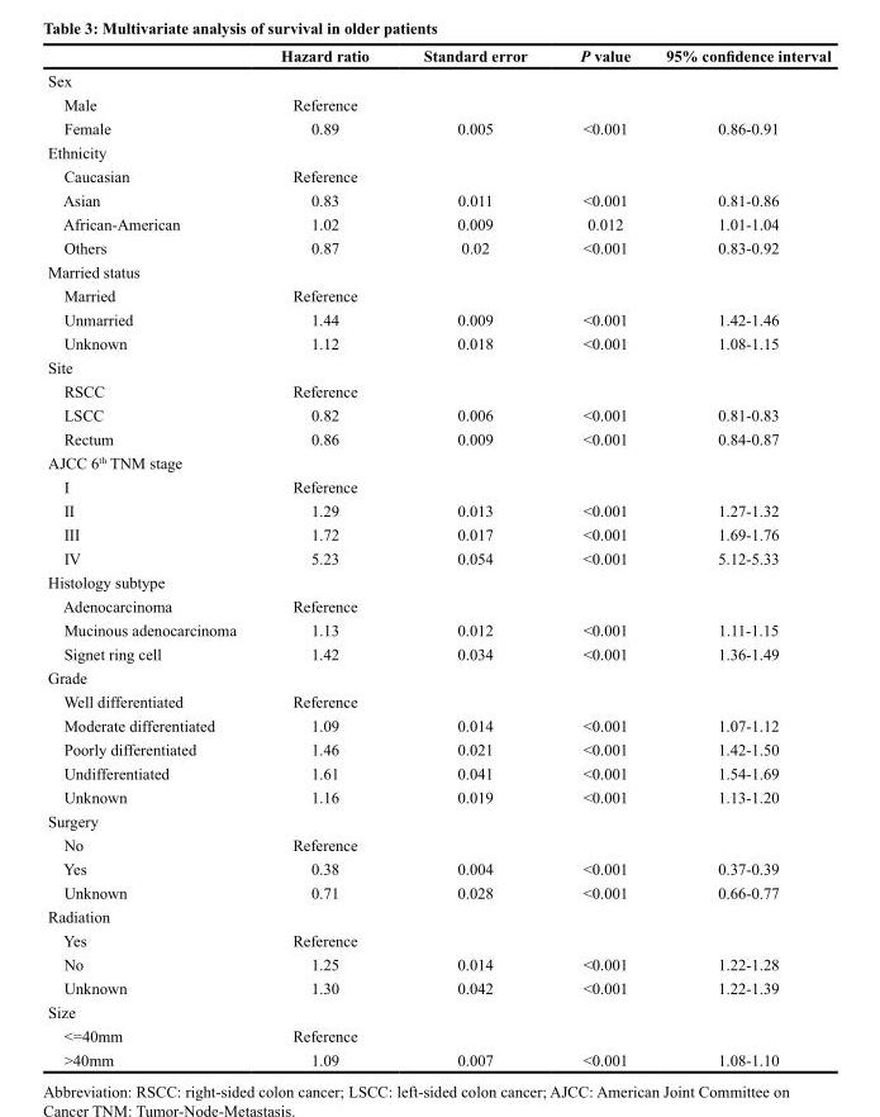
<table><thead><tr><td></td><td>Hazard ratio</td><td>Standard error</td><td>P value</td><td>95% confidence interval</td></tr></thead><tbody><tr><td colspan="5">Sex</td></tr><tr><td>Male</td><td>Reference</td><td></td><td></td><td></td></tr><tr><td>Female</td><td>0.89</td><td>0.005</td><td>&lt;0.001</td><td>0.86-0.91</td></tr><tr><td colspan="5">Ethnicity</td></tr><tr><td>Caucasian</td><td>Reference</td><td></td><td></td><td></td></tr><tr><td>Asian</td><td>0.83</td><td>0.011</td><td>&lt;0.001</td><td>0.81-0.86</td></tr><tr><td>African-American</td><td>1.02</td><td>0.009</td><td>0.012</td><td>1.01-1.04</td></tr><tr><td>Others</td><td>0.87</td><td>0.02</td><td>&lt;0.001</td><td>0.83-0.92</td></tr><tr><td colspan="5">Married status</td></tr><tr><td>Married</td><td>Reference</td><td></td><td></td><td></td></tr><tr><td>Unmarried</td><td>1.44</td><td>0.009</td><td>&lt;0.001</td><td>1.42-1.46</td></tr><tr><td>Unknown</td><td>1.12</td><td>0.018</td><td>&lt;0.001</td><td>1.08-1.15</td></tr><tr><td colspan="5">Site</td></tr><tr><td>RSCC</td><td>Reference</td><td></td><td></td><td></td></tr><tr><td>LSCC</td><td>0.82</td><td>0.006</td><td>&lt;0.001</td><td>0.81-0.83</td></tr><tr><td>Rectum</td><td>0.86</td><td>0.009</td><td>&lt;0.001</td><td>0.84-0.87</td></tr><tr><td colspan="5">AJCC 6<sup>th</sup> TNM stage</td></tr><tr><td>I</td><td>Reference</td><td></td><td></td><td></td></tr><tr><td>II</td><td>1.29</td><td>0.013</td><td>&lt;0.001</td><td>1.27-1.32</td></tr><tr><td>III</td><td>1.72</td><td>0.017</td><td>&lt;0.001</td><td>1.69-1.76</td></tr><tr><td>IV</td><td>5.23</td><td>0.054</td><td>&lt;0.001</td><td>5.12-5.33</td></tr><tr><td colspan="5">Histology subtype</td></tr><tr><td>Adenocarcinoma</td><td>Reference</td><td></td><td></td><td></td></tr><tr><td>Mucinous adenocarcinoma</td><td>1.13</td><td>0.012</td><td>&lt;0.001</td><td>1.11-1.15</td></tr><tr><td>Signet ring cell</td><td>1.42</td><td>0.034</td><td>&lt;0.001</td><td>1.36-1.49</td></tr><tr><td colspan="5">Grade</td></tr><tr><td>Well differentiated</td><td>Reference</td><td></td><td></td><td></td></tr><tr><td>Moderate differentiated</td><td>1.09</td><td>0.014</td><td>&lt;0.001</td><td>1.07-1.12</td></tr><tr><td>Poorly differentiated</td><td>1.46</td><td>0.021</td><td>&lt;0.001</td><td>1.42-1.50</td></tr><tr><td>Undifferentiated</td><td>1.61</td><td>0.041</td><td>&lt;0.001</td><td>1.54-1.69</td></tr><tr><td>Unknown</td><td>1.16</td><td>0.019</td><td>&lt;0.001</td><td>1.13-1.20</td></tr><tr><td colspan="5">Surgery</td></tr><tr><td>No</td><td>Reference</td><td></td><td></td><td></td></tr><tr><td>Yes</td><td>0.38</td><td>0.004</td><td>&lt;0.001</td><td>0.37-0.39</td></tr><tr><td>Unknown</td><td>0.71</td><td>0.028</td><td>&lt;0.001</td><td>0.66-0.77</td></tr><tr><td colspan="5">Radiation</td></tr><tr><td>Yes</td><td>Reference</td><td></td><td></td><td></td></tr><tr><td>No</td><td>1.25</td><td>0.014</td><td>&lt;0.001</td><td>1.22-1.28</td></tr><tr><td>Unknown</td><td>1.30</td><td>0.042</td><td>&lt;0.001</td><td>1.22-1.39</td></tr><tr><td colspan="5">Size</td></tr><tr><td>&lt;=40mm</td><td>Reference</td><td></td><td></td><td></td></tr><tr><td>&gt;40mm</td><td>1.09</td><td>0.007</td><td>&lt;0.001</td><td>1.08-1.10</td></tr></tbody></table>